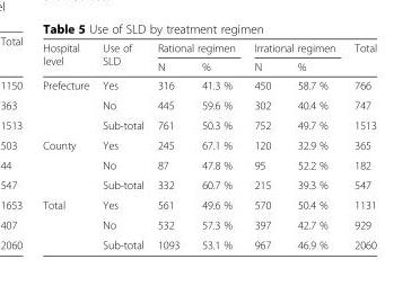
<table><thead><tr><td rowspan="2">Hospital level</td><td rowspan="2">Use of SLD</td><td colspan="2">Rational regimen</td><td colspan="2">Irrational regimen</td><td rowspan="2">Total</td></tr><tr><td>N</td><td>%</td><td>N</td><td>%</td></tr></thead><tbody><tr><td rowspan="3">Prefecture</td><td>Yes</td><td>316</td><td>41.3 %</td><td>450</td><td>58.7 %</td><td>766</td></tr><tr><td>No</td><td>445</td><td>59.6 %</td><td>302</td><td>40.4 %</td><td>747</td></tr><tr><td>Sub-total</td><td>761</td><td>50.3 %</td><td>752</td><td>49.7 %</td><td>1513</td></tr><tr><td rowspan="3">County</td><td>Yes</td><td>245</td><td>67.1 %</td><td>120</td><td>32.9 %</td><td>365</td></tr><tr><td>No</td><td>87</td><td>47.8 %</td><td>95</td><td>52.2 %</td><td>182</td></tr><tr><td>Sub-total</td><td>332</td><td>60.7 %</td><td>215</td><td>39.3 %</td><td>547</td></tr><tr><td rowspan="3">Total</td><td>Yes</td><td>561</td><td>49.6 %</td><td>570</td><td>50.4 %</td><td>1131</td></tr><tr><td>No</td><td>532</td><td>57.3 %</td><td>397</td><td>42.7 %</td><td>929</td></tr><tr><td>Sub-total</td><td>1093</td><td>53.1 %</td><td>967</td><td>46.9 %</td><td>2060</td></tr></tbody></table>